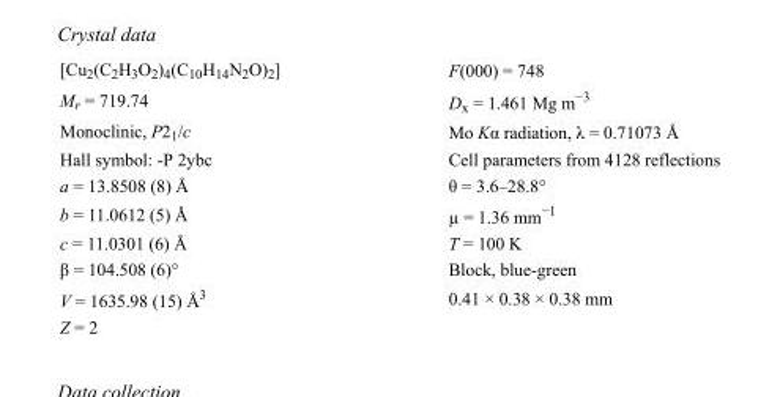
<table><tbody><tr><td>[Cu<sub>2</sub>(C<sub>2</sub>H<sub>3</sub>O<sub>2</sub>)<sub>4</sub>(C<sub>10</sub>H<sub>14</sub>N<sub>2</sub>O)<sub>2</sub>]</td><td>F(000) = 748</td></tr><tr><td>M<sub>r</sub> = 719.74</td><td>D<sub>x</sub> = 1.461 Mg m<sup>−3</sup></td></tr><tr><td>Monoclinic, P2<sub>1</sub>/c</td><td>Mo Kα radiation, λ = 0.71073 Å</td></tr><tr><td>Hall symbol: -P 2ybc</td><td>Cell parameters from 4128 reflections</td></tr><tr><td>a = 13.8508 (8) Å</td><td>θ = 3.6–28.8°</td></tr><tr><td>b = 11.0612 (5) Å</td><td>µ = 1.36 mm<sup>−1</sup></td></tr><tr><td>c = 11.0301 (6) Å</td><td>T = 100 K</td></tr><tr><td>β = 104.508 (6)°</td><td>Block, blue-green</td></tr><tr><td>V = 1635.98 (15) Å<sup>3</sup></td><td>0.41 × 0.38 × 0.38 mm</td></tr><tr><td>Z = 2</td><td></td></tr></tbody></table>